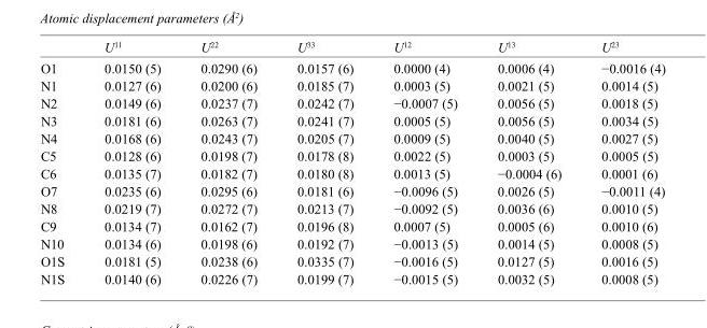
<table><thead><tr><td></td><td>U<sup>11</sup></td><td>U<sup>22</sup></td><td>U<sup>33</sup></td><td>U<sup>12</sup></td><td>U<sup>13</sup></td><td>U<sup>23</sup></td></tr></thead><tbody><tr><td>O1</td><td>0.0150 (5)</td><td>0.0290 (6)</td><td>0.0157 (6)</td><td>0.0000 (4)</td><td>0.0006 (4)</td><td>−0.0016 (4)</td></tr><tr><td>N1</td><td>0.0127 (6)</td><td>0.0200 (6)</td><td>0.0185 (7)</td><td>0.0003 (5)</td><td>0.0021 (5)</td><td>0.0014 (5)</td></tr><tr><td>N2</td><td>0.0149 (6)</td><td>0.0237 (7)</td><td>0.0242 (7)</td><td>−0.0007 (5)</td><td>0.0056 (5)</td><td>0.0018 (5)</td></tr><tr><td>N3</td><td>0.0181 (6)</td><td>0.0263 (7)</td><td>0.0241 (7)</td><td>0.0005 (5)</td><td>0.0056 (5)</td><td>0.0034 (5)</td></tr><tr><td>N4</td><td>0.0168 (6)</td><td>0.0243 (7)</td><td>0.0205 (7)</td><td>0.0009 (5)</td><td>0.0040 (5)</td><td>0.0027 (5)</td></tr><tr><td>C5</td><td>0.0128 (6)</td><td>0.0198 (7)</td><td>0.0178 (8)</td><td>0.0022 (5)</td><td>0.0003 (5)</td><td>0.0005 (5)</td></tr><tr><td>C6</td><td>0.0135 (7)</td><td>0.0182 (7)</td><td>0.0180 (8)</td><td>0.0013 (5)</td><td>−0.0004 (6)</td><td>0.0001 (6)</td></tr><tr><td>O7</td><td>0.0235 (6)</td><td>0.0295 (6)</td><td>0.0181 (6)</td><td>−0.0096 (5)</td><td>0.0026 (5)</td><td>−0.0011 (4)</td></tr><tr><td>N8</td><td>0.0219 (7)</td><td>0.0272 (7)</td><td>0.0213 (7)</td><td>−0.0092 (5)</td><td>0.0036 (6)</td><td>0.0010 (5)</td></tr><tr><td>C9</td><td>0.0134 (7)</td><td>0.0162 (7)</td><td>0.0196 (8)</td><td>0.0007 (5)</td><td>0.0005 (6)</td><td>0.0010 (6)</td></tr><tr><td>N10</td><td>0.0134 (6)</td><td>0.0198 (6)</td><td>0.0192 (7)</td><td>−0.0013 (5)</td><td>0.0014 (5)</td><td>0.0008 (5)</td></tr><tr><td>O1S</td><td>0.0181 (5)</td><td>0.0238 (6)</td><td>0.0335 (7)</td><td>−0.0016 (5)</td><td>0.0127 (5)</td><td>0.0016 (5)</td></tr><tr><td>N1S</td><td>0.0140 (6)</td><td>0.0226 (7)</td><td>0.0199 (7)</td><td>−0.0015 (5)</td><td>0.0032 (5)</td><td>0.0008 (5)</td></tr></tbody></table>